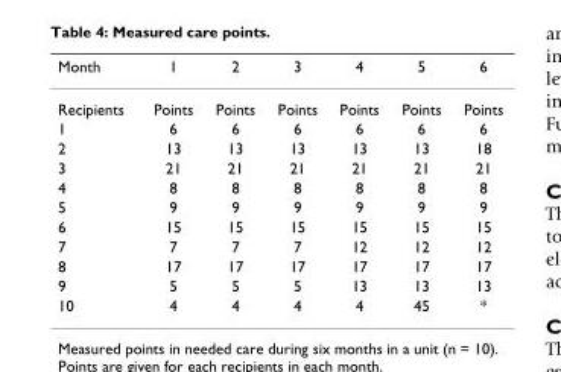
<table><thead><tr><td>Month</td><td>1</td><td>2</td><td>3</td><td>4</td><td>5</td><td>6</td></tr></thead><tbody><tr><td>Recipients</td><td>Points</td><td>Points</td><td>Points</td><td>Points</td><td>Points</td><td>Points</td></tr><tr><td>1</td><td>6</td><td>6</td><td>6</td><td>6</td><td>6</td><td>6</td></tr><tr><td>2</td><td>13</td><td>13</td><td>13</td><td>13</td><td>13</td><td>18</td></tr><tr><td>3</td><td>21</td><td>21</td><td>21</td><td>21</td><td>21</td><td>21</td></tr><tr><td>4</td><td>8</td><td>8</td><td>8</td><td>8</td><td>8</td><td>8</td></tr><tr><td>5</td><td>9</td><td>9</td><td>9</td><td>9</td><td>9</td><td>9</td></tr><tr><td>6</td><td>15</td><td>15</td><td>15</td><td>15</td><td>15</td><td>15</td></tr><tr><td>7</td><td>7</td><td>7</td><td>7</td><td>12</td><td>12</td><td>12</td></tr><tr><td>8</td><td>17</td><td>17</td><td>17</td><td>17</td><td>17</td><td>17</td></tr><tr><td>9</td><td>5</td><td>5</td><td>5</td><td>13</td><td>13</td><td>13</td></tr><tr><td>10</td><td>4</td><td>4</td><td>4</td><td>4</td><td>45</td><td>*</td></tr></tbody></table>